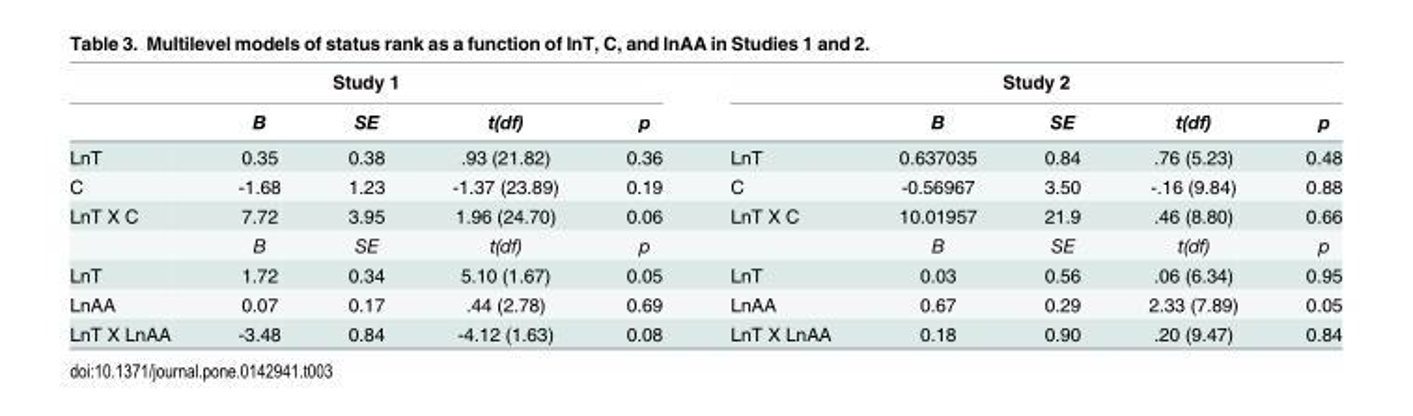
<table><thead><tr><td colspan="5">Study 1</td><td colspan="5">Study 2</td></tr><tr><td></td><td>B</td><td>SE</td><td>t(df)</td><td>p</td><td></td><td>B</td><td>SE</td><td>t(df)</td><td>p</td></tr></thead><tbody><tr><td>LnT</td><td>0.35</td><td>0.38</td><td>.93 (21.82)</td><td>0.36</td><td>LnT</td><td>0.637035</td><td>0.84</td><td>.76 (5.23)</td><td>0.48</td></tr><tr><td>C</td><td>-1.68</td><td>1.23</td><td>-1.37 (23.89)</td><td>0.19</td><td>C</td><td>-0.56967</td><td>3.50</td><td>-.16 (9.84)</td><td>0.88</td></tr><tr><td rowspan="2">LnT X C</td><td>7.72</td><td>3.95</td><td>1.96 (24.70)</td><td>0.06</td><td>LnT X C</td><td>10.01957</td><td>21.9</td><td>.46 (8.80)</td><td>0.66</td></tr><tr><td>B</td><td>SE</td><td>t(df)</td><td>p</td><td></td><td>B</td><td>SE</td><td>t(df)</td><td>p</td></tr><tr><td>LnT</td><td>1.72</td><td>0.34</td><td>5.10 (1.67)</td><td>0.05</td><td>LnT</td><td>0.03</td><td>0.56</td><td>.06 (6.34)</td><td>0.95</td></tr><tr><td>LnAA</td><td>0.07</td><td>0.17</td><td>.44 (2.78)</td><td>0.69</td><td>LnAA</td><td>0.67</td><td>0.29</td><td>2.33 (7.89)</td><td>0.05</td></tr><tr><td>LnT X LnAA</td><td>-3.48</td><td>0.84</td><td>-4.12 (1.63)</td><td>0.08</td><td>LnT X LnAA</td><td>0.18</td><td>0.90</td><td>.20 (9.47)</td><td>0.84</td></tr></tbody></table>